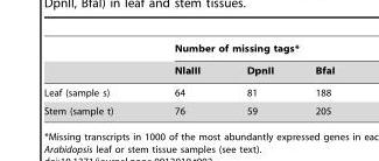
<table><thead><tr><td rowspan="2"></td><td colspan="3">Number of missing tags*</td></tr><tr><td>NlaIII</td><td>DpnII</td><td>BfaI</td></tr></thead><tbody><tr><td>Leaf (sample s)</td><td>64</td><td>81</td><td>188</td></tr><tr><td>Stem (sample t)</td><td>76</td><td>59</td><td>205</td></tr></tbody></table>